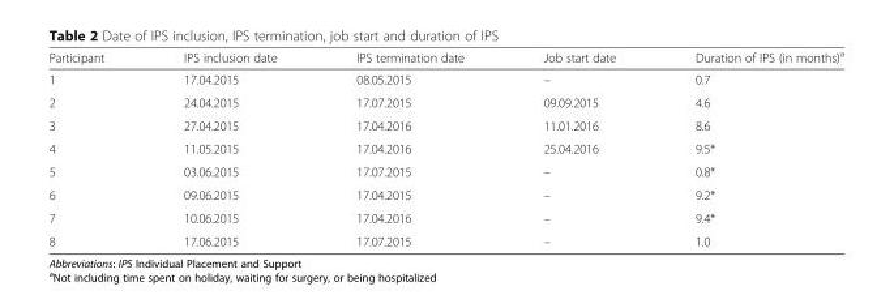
<table><thead><tr><td>Participant</td><td>IPS inclusion date</td><td>IPS termination date</td><td>Job start date</td><td>Duration of IPS (in months)<sup>a</sup></td></tr></thead><tbody><tr><td>1</td><td>17.04.2015</td><td>08.05.2015</td><td>–</td><td>0.7</td></tr><tr><td>2</td><td>24.04.2015</td><td>17.07.2015</td><td>09.09.2015</td><td>4.6</td></tr><tr><td>3</td><td>27.04.2015</td><td>17.04.2016</td><td>11.01.2016</td><td>8.6</td></tr><tr><td>4</td><td>11.05.2015</td><td>17.04.2016</td><td>25.04.2016</td><td>9.5*</td></tr><tr><td>5</td><td>03.06.2015</td><td>17.07.2015</td><td>–</td><td>0.8*</td></tr><tr><td>6</td><td>09.06.2015</td><td>17.04.2015</td><td>–</td><td>9.2*</td></tr><tr><td>7</td><td>10.06.2015</td><td>17.04.2016</td><td>–</td><td>9.4*</td></tr><tr><td>8</td><td>17.06.2015</td><td>17.07.2015</td><td>–</td><td>1.0</td></tr></tbody></table>